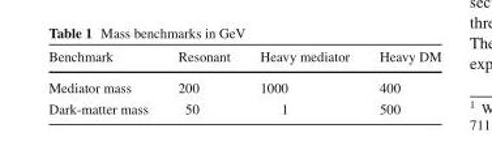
<table><thead><tr><td>Benchmark</td><td>Resonant</td><td>Heavy mediator</td><td>Heavy DM</td></tr></thead><tbody><tr><td>Mediator mass</td><td>200</td><td>1000</td><td>400</td></tr><tr><td>Dark-matter mass</td><td>50</td><td>1</td><td>500</td></tr></tbody></table>